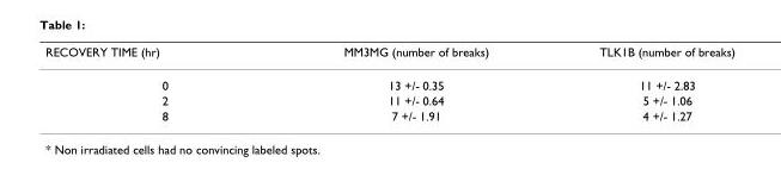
<table><thead><tr><td>RECOVERY TIME (hr)</td><td>MM3MG (number of breaks)</td><td>TLK1B (number of breaks)</td></tr></thead><tbody><tr><td>0</td><td>13 +/- 0.35</td><td>11 +/- 2.83</td></tr><tr><td>2</td><td>11 +/- 0.64</td><td>5 +/- 1.06</td></tr><tr><td>8</td><td>7 +/- 1.91</td><td>4 +/- 1.27</td></tr></tbody></table>